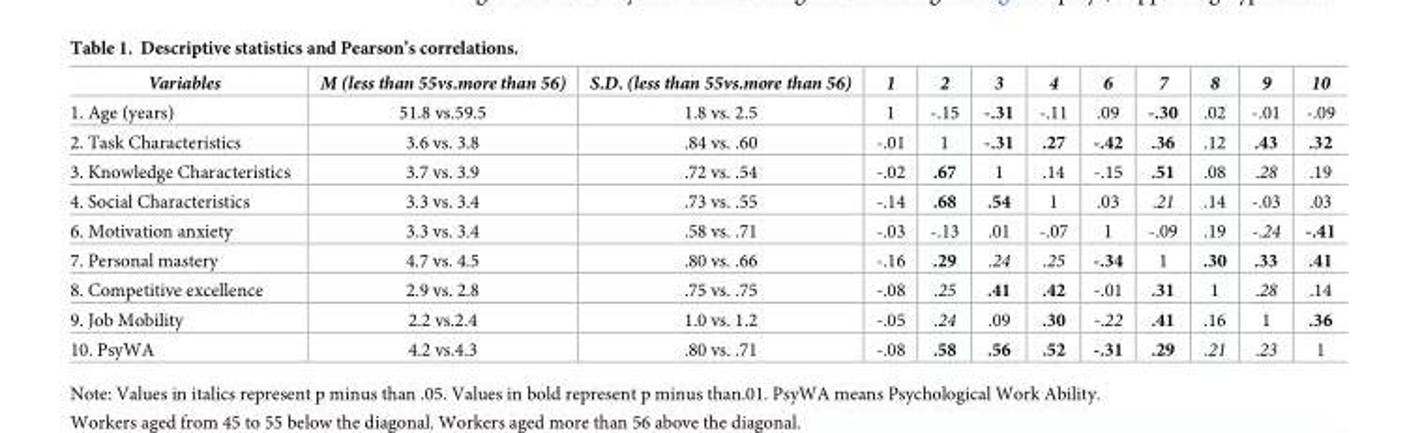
<table><thead><tr><td>Variables</td><td>M (less than 55vs.more than 56)</td><td>S.D. (less than 55vs.more than 56)</td><td>1</td><td>2</td><td>3</td><td>4</td><td>6</td><td>7</td><td>8</td><td>9</td><td>10</td></tr></thead><tbody><tr><td>1. Age (years)</td><td>51.8 vs.59.5</td><td>1.8 vs. 2.5</td><td>1</td><td>-.15</td><td>-.31</td><td>-.11</td><td>.09</td><td>-.30</td><td>.02</td><td>-.01</td><td>-.09</td></tr><tr><td>2. Task Characteristics</td><td>3.6 vs. 3.8</td><td>.84 vs. .60</td><td>-.01</td><td>1</td><td>-.31</td><td>.27</td><td>-.42</td><td>.36</td><td>.12</td><td>.43</td><td>.32</td></tr><tr><td>3. Knowledge Characteristics</td><td>3.7 vs. 3.9</td><td>.72 vs. .54</td><td>-.02</td><td>.67</td><td>1</td><td>.14</td><td>-.15</td><td>.51</td><td>.08</td><td>.28</td><td>.19</td></tr><tr><td>4. Social Characteristics</td><td>3.3 vs. 3.4</td><td>.73 vs. .55</td><td>-.14</td><td>.68</td><td>.54</td><td>1</td><td>.03</td><td>.21</td><td>.14</td><td>-.03</td><td>.03</td></tr><tr><td>6. Motivation anxiety</td><td>3.3 vs. 3.4</td><td>.58 vs. .71</td><td>-.03</td><td>-.13</td><td>.01</td><td>-.07</td><td>1</td><td>-.09</td><td>.19</td><td>-.24</td><td>-.41</td></tr><tr><td>7. Personal mastery</td><td>4.7 vs. 4.5</td><td>.80 vs. .66</td><td>-.16</td><td>.29</td><td>.24</td><td>.25</td><td>-.34</td><td>1</td><td>.30</td><td>.33</td><td>.41</td></tr><tr><td>8. Competitive excellence</td><td>2.9 vs. 2.8</td><td>.75 vs. .75</td><td>-.08</td><td>.25</td><td>.41</td><td>.42</td><td>-.01</td><td>.31</td><td>1</td><td>.28</td><td>.14</td></tr><tr><td>9. Job Mobility</td><td>2.2 vs.2.4</td><td>1.0 vs. 1.2</td><td>-.05</td><td>.24</td><td>.09</td><td>.30</td><td>-.22</td><td>.41</td><td>.16</td><td>1</td><td>.36</td></tr><tr><td>10. PsyWA</td><td>4.2 vs.4.3</td><td>.80 vs. .71</td><td>-.08</td><td>.58</td><td>.56</td><td>.52</td><td>-.31</td><td>.29</td><td>.21</td><td>.23</td><td>1</td></tr></tbody></table>